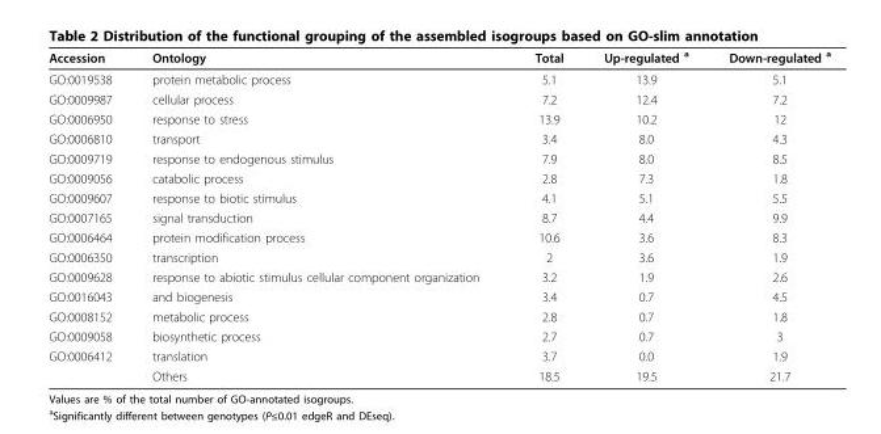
<table><thead><tr><td>Accession</td><td>Ontology</td><td>Total</td><td>Up-regulated <sup>a</sup></td><td>Down-regulated <sup>a</sup></td></tr></thead><tbody><tr><td>GO:0019538</td><td>protein metabolic process</td><td>5.1</td><td>13.9</td><td>5.1</td></tr><tr><td>GO:0009987</td><td>cellular process</td><td>7.2</td><td>12.4</td><td>7.2</td></tr><tr><td>GO:0006950</td><td>response to stress</td><td>13.9</td><td>10.2</td><td>12</td></tr><tr><td>GO:0006810</td><td>transport</td><td>3.4</td><td>8.0</td><td>4.3</td></tr><tr><td>GO:0009719</td><td>response to endogenous stimulus</td><td>7.9</td><td>8.0</td><td>8.5</td></tr><tr><td>GO:0009056</td><td>catabolic process</td><td>2.8</td><td>7.3</td><td>1.8</td></tr><tr><td>GO:0009607</td><td>response to biotic stimulus</td><td>4.1</td><td>5.1</td><td>5.5</td></tr><tr><td>GO:0007165</td><td>signal transduction</td><td>8.7</td><td>4.4</td><td>9.9</td></tr><tr><td>GO:0006464</td><td>protein modification process</td><td>10.6</td><td>3.6</td><td>8.3</td></tr><tr><td>GO:0006350</td><td>transcription</td><td>2</td><td>3.6</td><td>1.9</td></tr><tr><td>GO:0009628</td><td>response to abiotic stimulus cellular component organization</td><td>3.2</td><td>1.9</td><td>2.6</td></tr><tr><td>GO:0016043</td><td>and biogenesis</td><td>3.4</td><td>0.7</td><td>4.5</td></tr><tr><td>GO:0008152</td><td>metabolic process</td><td>2.8</td><td>0.7</td><td>1.8</td></tr><tr><td>GO:0009058</td><td>biosynthetic process</td><td>2.7</td><td>0.7</td><td>3</td></tr><tr><td rowspan="2">GO:0006412</td><td>translation</td><td>3.7</td><td>0.0</td><td>1.9</td></tr><tr><td>Others</td><td>18.5</td><td>19.5</td><td>21.7</td></tr></tbody></table>